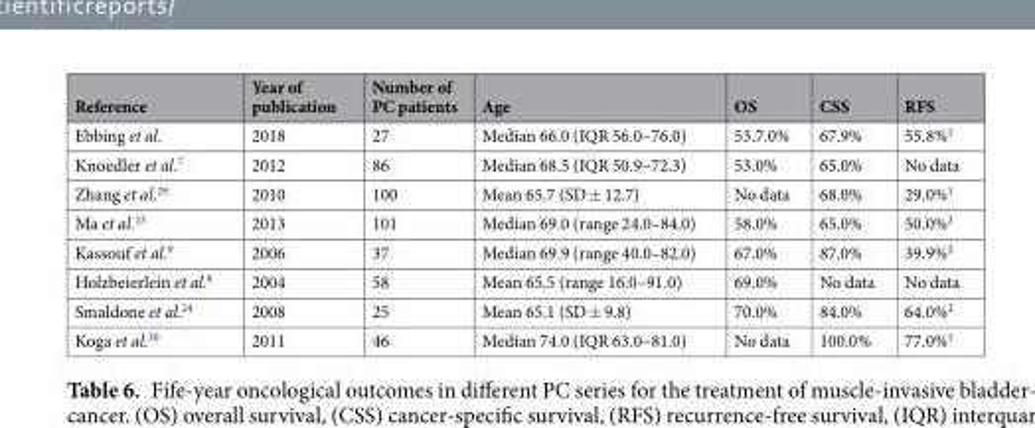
<table><thead><tr><td>Reference</td><td>Year of publication</td><td>Number of PC patients</td><td>Age</td><td>OS</td><td>CSS</td><td>RFS</td></tr></thead><tbody><tr><td>Ebbing et al.</td><td>2018</td><td>27</td><td>Median 66.0 (IQR 56.0–76.0)</td><td>53.7.0%</td><td>67.9%</td><td>55.8%<sup>1</sup></td></tr><tr><td>Knoedler et al.<sup>7</sup></td><td>2012</td><td>86</td><td>Median 68.5 (IQR 50.9–72.3)</td><td>53.0%</td><td>65.0%</td><td>No data</td></tr><tr><td>Zhang et al.<sup>29</sup></td><td>2010</td><td>100</td><td>Mean 65.7 (SD ± 12.7)</td><td>No data</td><td>68.0%</td><td>29.0%<sup>1</sup></td></tr><tr><td>Ma et al.<sup>23</sup></td><td>2013</td><td>101</td><td>Median 69.0 (range 24.0–84.0)</td><td>58.0%</td><td>65.0%</td><td>50.0%<sup>2</sup></td></tr><tr><td>Kassouf et al.<sup>9</sup></td><td>2006</td><td>37</td><td>Median 69.9 (range 40.0–82.0)</td><td>67.0%</td><td>87.0%</td><td>39.9%<sup>2</sup></td></tr><tr><td>Holzbeierlein et al.<sup>8</sup></td><td>2004</td><td>58</td><td>Mean 65.5 (range 16.0–91.0)</td><td>69.0%</td><td>No data</td><td>No data</td></tr><tr><td>Smaldone et al.<sup>24</sup></td><td>2008</td><td>25</td><td>Mean 65.1 (SD ± 9.8)</td><td>70.0%</td><td>84.0%</td><td>64.0%<sup>2</sup></td></tr><tr><td>Koga et al.<sup>30</sup></td><td>2011</td><td>46</td><td>Median 74.0 (IQR 63.0–81.0)</td><td>No data</td><td>100.0%</td><td>77.0%<sup>1</sup></td></tr></tbody></table>